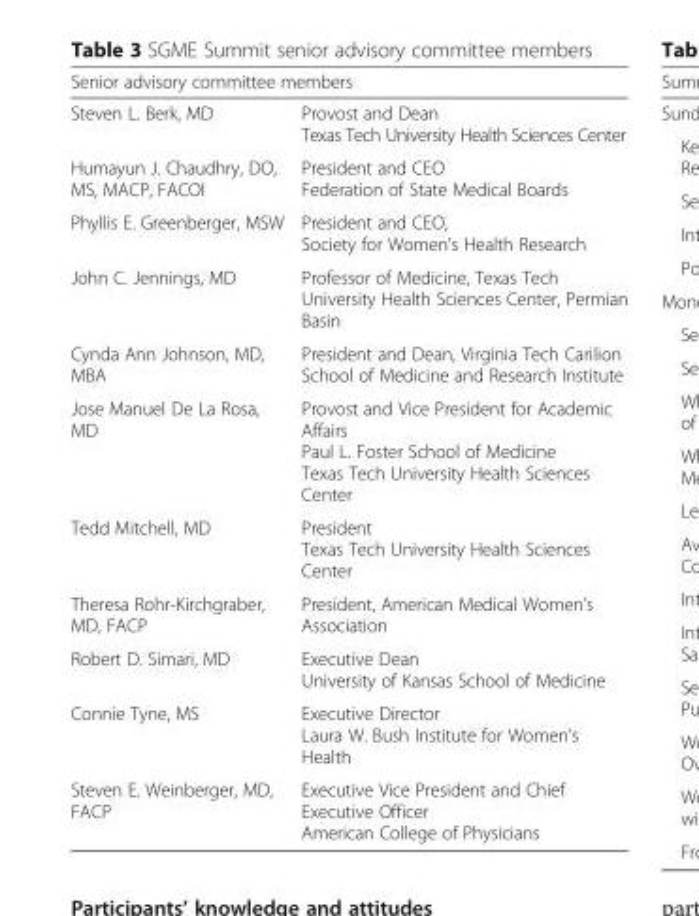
<table><thead><tr><td colspan="2">Senior advisory committee members</td></tr><tr><td>Steven L. Berk, MD</td><td>Provost and Dean Texas Tech University Health Sciences Center</td></tr></thead><tbody><tr><td>Humayun J. Chaudhry, DO, MS, MACP, FACOI</td><td>President and CEO Federation of State Medical Boards</td></tr><tr><td>Phyllis E. Greenberger, MSW</td><td>President and CEO, Society for Women’s Health Research</td></tr><tr><td>John C. Jennings, MD</td><td>Professor of Medicine, Texas Tech University Health Sciences Center, Permian Basin</td></tr><tr><td>Cynda Ann Johnson, MD, MBA</td><td>President and Dean, Virginia Tech Carilion School of Medicine and Research Institute</td></tr><tr><td>Jose Manuel De La Rosa, MD</td><td>Provost and Vice President for Academic Affairs Paul L. Foster School of Medicine Texas Tech University Health Sciences Center</td></tr><tr><td>Tedd Mitchell, MD</td><td>President Texas Tech University Health Sciences Center</td></tr><tr><td>Theresa Rohr-Kirchgraber, MD, FACP</td><td>President, American Medical Women’s Association</td></tr><tr><td>Robert D. Simari, MD</td><td>Executive Dean University of Kansas School of Medicine</td></tr><tr><td>Connie Tyne, MS</td><td>Executive Director Laura W. Bush Institute for Women&#x27;s Health</td></tr><tr><td>Steven E. Weinberger, MD, FACP</td><td>Executive Vice President and Chief Executive Officer American College of Physicians</td></tr></tbody></table>